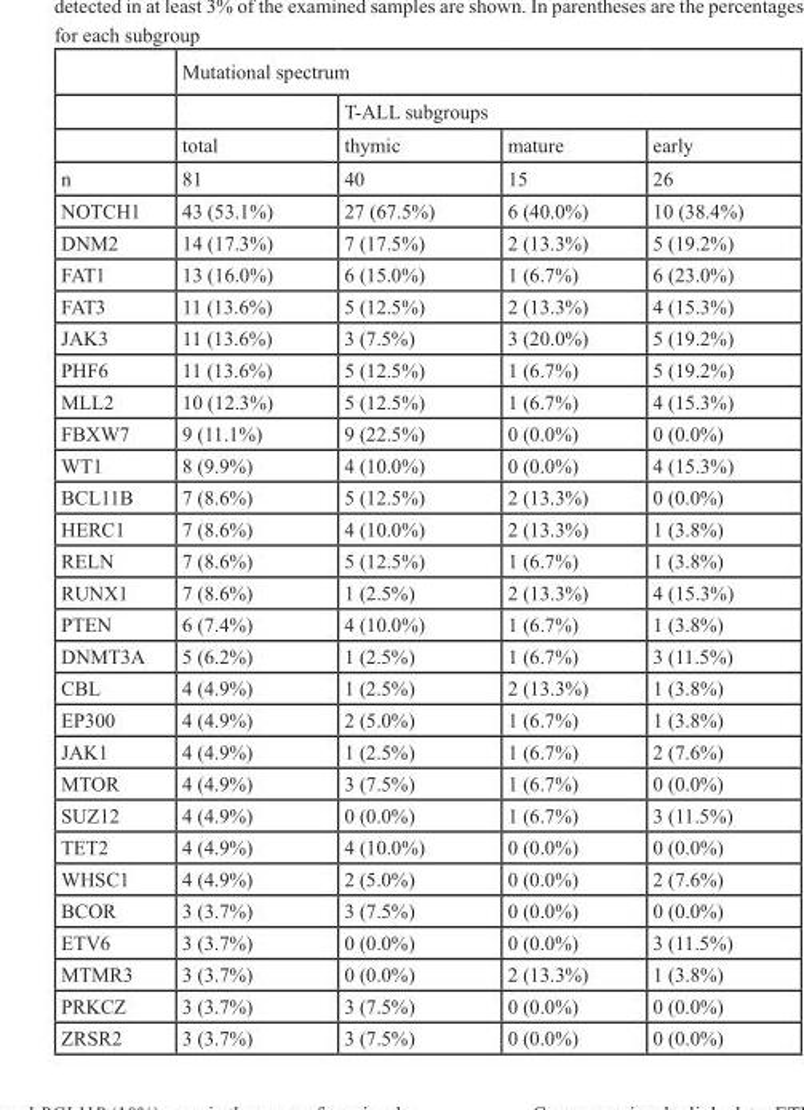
<table><thead><tr><td rowspan="3"></td><td colspan="4">Mutational spectrum</td></tr><tr><td rowspan="2">total</td><td colspan="3">T-ALL subgroups</td></tr><tr><td>thymic</td><td>mature</td><td>early</td></tr></thead><tbody><tr><td>n</td><td>81</td><td>40</td><td>15</td><td>26</td></tr><tr><td>NOTCH1</td><td>43 (53.1%)</td><td>27 (67.5%)</td><td>6 (40.0%)</td><td>10 (38.4%)</td></tr><tr><td>DNM2</td><td>14 (17.3%)</td><td>7 (17.5%)</td><td>2 (13.3%)</td><td>5 (19.2%)</td></tr><tr><td>FAT1</td><td>13 (16.0%)</td><td>6 (15.0%)</td><td>1 (6.7%)</td><td>6 (23.0%)</td></tr><tr><td>FAT3</td><td>11 (13.6%)</td><td>5 (12.5%)</td><td>2 (13.3%)</td><td>4 (15.3%)</td></tr><tr><td>JAK3</td><td>11 (13.6%)</td><td>3 (7.5%)</td><td>3 (20.0%)</td><td>5 (19.2%)</td></tr><tr><td>PHF6</td><td>11 (13.6%)</td><td>5 (12.5%)</td><td>1 (6.7%)</td><td>5 (19.2%)</td></tr><tr><td>MLL2</td><td>10 (12.3%)</td><td>5 (12.5%)</td><td>1 (6.7%)</td><td>4 (15.3%)</td></tr><tr><td>FBXW7</td><td>9 (11.1%)</td><td>9 (22.5%)</td><td>0 (0.0%)</td><td>0 (0.0%)</td></tr><tr><td>WT1</td><td>8 (9.9%)</td><td>4 (10.0%)</td><td>0 (0.0%)</td><td>4 (15.3%)</td></tr><tr><td>BCL11B</td><td>7 (8.6%)</td><td>5 (12.5%)</td><td>2 (13.3%)</td><td>0 (0.0%)</td></tr><tr><td>HERC1</td><td>7 (8.6%)</td><td>4 (10.0%)</td><td>2 (13.3%)</td><td>1 (3.8%)</td></tr><tr><td>RELN</td><td>7 (8.6%)</td><td>5 (12.5%)</td><td>1 (6.7%)</td><td>1 (3.8%)</td></tr><tr><td>RUNX1</td><td>7 (8.6%)</td><td>1 (2.5%)</td><td>2 (13.3%)</td><td>4 (15.3%)</td></tr><tr><td>PTEN</td><td>6 (7.4%)</td><td>4 (10.0%)</td><td>1 (6.7%)</td><td>1 (3.8%)</td></tr><tr><td>DNMT3A</td><td>5 (6.2%)</td><td>1 (2.5%)</td><td>1 (6.7%)</td><td>3 (11.5%)</td></tr><tr><td>CBL</td><td>4 (4.9%)</td><td>1 (2.5%)</td><td>2 (13.3%)</td><td>1 (3.8%)</td></tr><tr><td>EP300</td><td>4 (4.9%)</td><td>2 (5.0%)</td><td>1 (6.7%)</td><td>1 (3.8%)</td></tr><tr><td>JAK1</td><td>4 (4.9%)</td><td>1 (2.5%)</td><td>1 (6.7%)</td><td>2 (7.6%)</td></tr><tr><td>MTOR</td><td>4 (4.9%)</td><td>3 (7.5%)</td><td>1 (6.7%)</td><td>0 (0.0%)</td></tr><tr><td>SUZ12</td><td>4 (4.9%)</td><td>0 (0.0%)</td><td>1 (6.7%)</td><td>3 (11.5%)</td></tr><tr><td>TET2</td><td>4 (4.9%)</td><td>4 (10.0%)</td><td>0 (0.0%)</td><td>0 (0.0%)</td></tr><tr><td>WHSC1</td><td>4 (4.9%)</td><td>2 (5.0%)</td><td>0 (0.0%)</td><td>2 (7.6%)</td></tr><tr><td>BCOR</td><td>3 (3.7%)</td><td>3 (7.5%)</td><td>0 (0.0%)</td><td>0 (0.0%)</td></tr><tr><td>ETV6</td><td>3 (3.7%)</td><td>0 (0.0%)</td><td>0 (0.0%)</td><td>3 (11.5%)</td></tr><tr><td>MTMR3</td><td>3 (3.7%)</td><td>0 (0.0%)</td><td>2 (13.3%)</td><td>1 (3.8%)</td></tr><tr><td>PRKCZ</td><td>3 (3.7%)</td><td>3 (7.5%)</td><td>0 (0.0%)</td><td>0 (0.0%)</td></tr><tr><td>ZRSR2</td><td>3 (3.7%)</td><td>3 (7.5%)</td><td>0 (0.0%)</td><td>0 (0.0%)</td></tr></tbody></table>